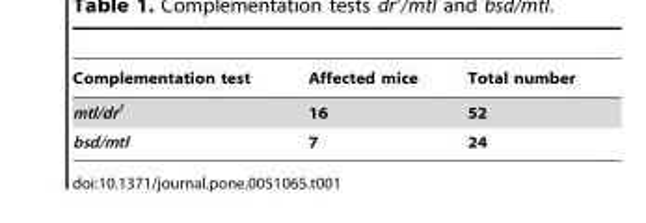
<table><thead><tr><td>Complementation test</td><td>Affected mice</td><td>Total number</td></tr></thead><tbody><tr><td>mtl/dr<sup>J</sup></td><td>16</td><td>52</td></tr><tr><td>bsd/mtl</td><td>7</td><td>24</td></tr></tbody></table>